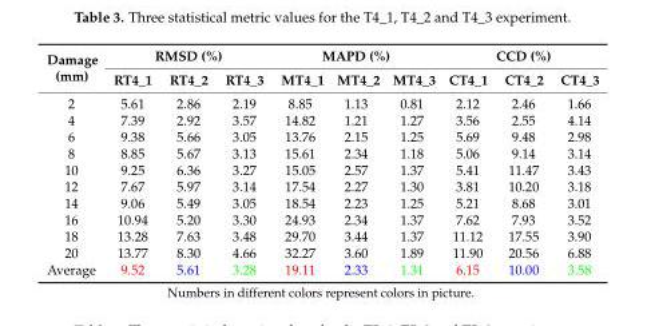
<table><thead><tr><td rowspan="2">Damage (mm)</td><td colspan="3">RMSD (%)</td><td colspan="3">MAPD (%)</td><td colspan="3">CCD (%)</td></tr><tr><td>RT4_1</td><td>RT4_2</td><td>RT4_3</td><td>MT4_1</td><td>MT4_2</td><td>MT4_3</td><td>CT4_1</td><td>CT4_2</td><td>CT4_3</td></tr></thead><tbody><tr><td>2</td><td>5.61</td><td>2.86</td><td>2.19</td><td>8.85</td><td>1.13</td><td>0.81</td><td>2.12</td><td>2.46</td><td>1.66</td></tr><tr><td>4</td><td>7.39</td><td>2.92</td><td>3.57</td><td>14.82</td><td>1.21</td><td>1.27</td><td>3.56</td><td>2.55</td><td>4.14</td></tr><tr><td>6</td><td>9.38</td><td>5.66</td><td>3.05</td><td>13.76</td><td>2.15</td><td>1.25</td><td>5.69</td><td>9.48</td><td>2.98</td></tr><tr><td>8</td><td>8.85</td><td>5.67</td><td>3.13</td><td>15.61</td><td>2.34</td><td>1.18</td><td>5.06</td><td>9.14</td><td>3.14</td></tr><tr><td>10</td><td>9.25</td><td>6.36</td><td>3.27</td><td>15.05</td><td>2.57</td><td>1.37</td><td>5.41</td><td>11.47</td><td>3.43</td></tr><tr><td>12</td><td>7.67</td><td>5.97</td><td>3.14</td><td>17.54</td><td>2.27</td><td>1.30</td><td>3.81</td><td>10.20</td><td>3.18</td></tr><tr><td>14</td><td>9.06</td><td>5.49</td><td>3.05</td><td>18.54</td><td>2.23</td><td>1.25</td><td>5.21</td><td>8.68</td><td>3.01</td></tr><tr><td>16</td><td>10.94</td><td>5.20</td><td>3.30</td><td>24.93</td><td>2.34</td><td>1.37</td><td>7.62</td><td>7.93</td><td>3.52</td></tr><tr><td>18</td><td>13.28</td><td>7.63</td><td>3.48</td><td>29.70</td><td>3.44</td><td>1.37</td><td>11.12</td><td>17.55</td><td>3.90</td></tr><tr><td>20</td><td>13.77</td><td>8.30</td><td>4.66</td><td>32.27</td><td>3.60</td><td>1.89</td><td>11.90</td><td>20.56</td><td>6.88</td></tr><tr><td>Average</td><td>9.52</td><td>5.61</td><td>3.28</td><td>19.11</td><td>2.33</td><td>1.31</td><td>6.15</td><td>10.00</td><td>3.58</td></tr></tbody></table>